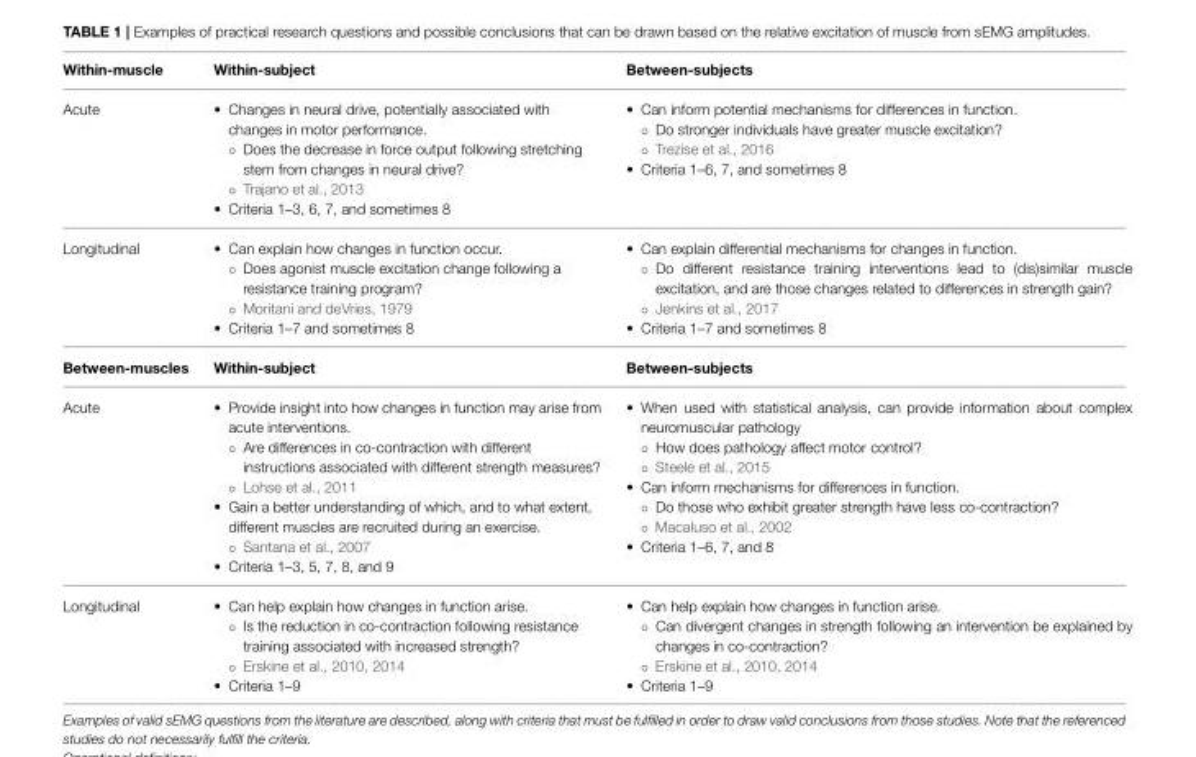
<table><thead><tr><td>Within-muscle</td><td>Within-subject</td><td>Between-subjects</td></tr></thead><tbody><tr><td>Acute</td><td>• Changes in neural drive, potentially associated with changes in motor performance. ◦ Does the decrease in force output following stretching stem from changes in neural drive? ◦ Trajano et al., 2013 • Criteria 1–3, 6, 7, and sometimes 8</td><td>• Can inform potential mechanisms for differences in function. ◦ Do stronger individuals have greater muscle excitation? ◦ Trezise et al., 2016 • Criteria 1–6, 7, and sometimes 8</td></tr><tr><td>Longitudinal</td><td>• Can explain how changes in function occur. ◦ Does agonist muscle excitation change following a resistance training program? ◦ Moritani and deVries, 1979 • Criteria 1–7 and sometimes 8</td><td>• Can explain differential mechanisms for changes in function. ◦ Do different resistance training interventions lead to (dis)similar muscle excitation, and are those changes related to differences in strength gain? ◦ Jenkins et al., 2017 • Criteria 1–7 and sometimes 8</td></tr><tr><td>Between-muscles</td><td>Within-subject</td><td>Between-subjects</td></tr><tr><td>Acute</td><td>• Provide insight into how changes in function may arise from acute interventions. ◦ Are differences in co-contraction with different instructions associated with different strength measures? ◦ Lohse et al., 2011 • Gain a better understanding of which, and to what extent, different muscles are recruited during an exercise. ◦ Santana et al., 2007 • Criteria 1–3, 5, 7, 8, and 9</td><td>• When used with statistical analysis, can provide information about complex neuromuscular pathology ◦ How does pathology affect motor control? ◦ Steele et al., 2015 • Can inform mechanisms for differences in function. ◦ Do those who exhibit greater strength have less co-contraction? ◦ Macaluso et al., 2002 • Criteria 1–6, 7, and 8</td></tr><tr><td>Longitudinal</td><td>• Can help explain how changes in function arise. ◦ Is the reduction in co-contraction following resistance training associated with increased strength? ◦ Erskine et al., 2010, 2014 • Criteria 1–9</td><td>• Can help explain how changes in function arise. ◦ Can divergent changes in strength following an intervention be explained by changes in co-contraction? ◦ Erskine et al., 2010, 2014 • Criteria 1–9</td></tr></tbody></table>